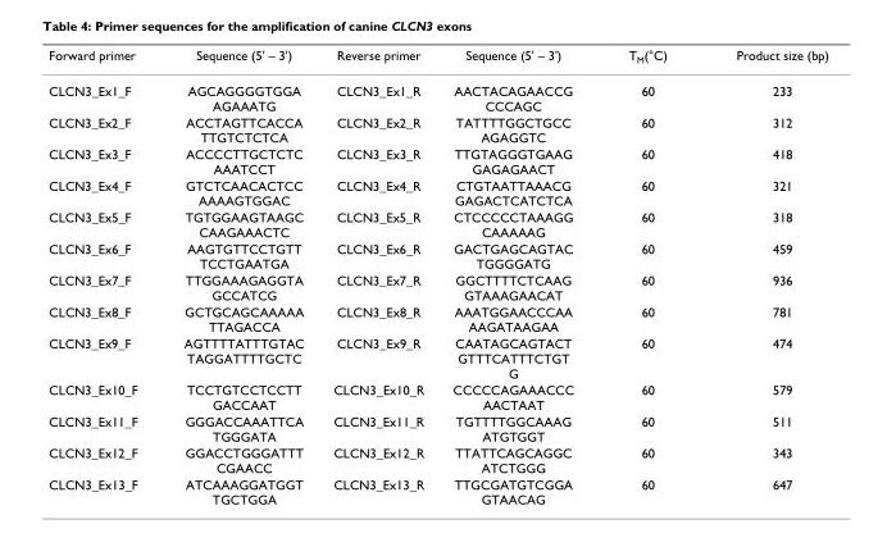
<table><thead><tr><td>Forward primer</td><td>Sequence (5&#x27; – 3&#x27;)</td><td>Reverse primer</td><td>Sequence (5&#x27; – 3&#x27;)</td><td>T<sub>M</sub>(°C)</td><td>Product size (bp)</td></tr></thead><tbody><tr><td>CLCN3_Ex1_F</td><td>AGCAGGGGTGGA AGAAATG</td><td>CLCN3_Ex1_R</td><td>AACTACAGAACCG CCCAGC</td><td>60</td><td>233</td></tr><tr><td>CLCN3_Ex2_F</td><td>ACCTAGTTCACCA TTGTCTCTCA</td><td>CLCN3_Ex2_R</td><td>TATTTTGGCTGCC AGAGGTC</td><td>60</td><td>312</td></tr><tr><td>CLCN3_Ex3_F</td><td>ACCCCTTGCTCTC AAATCCT</td><td>CLCN3_Ex3_R</td><td>TTGTAGGGTGAAG GAGAGAACT</td><td>60</td><td>418</td></tr><tr><td>CLCN3_Ex4_F</td><td>GTCTCAACACTCC AAAAGTGGAC</td><td>CLCN3_Ex4_R</td><td>CTGTAATTAAACG GAGACTCATCTCA</td><td>60</td><td>321</td></tr><tr><td>CLCN3_Ex5_F</td><td>TGTGGAAGTAAGC CAAGAAACTC</td><td>CLCN3_Ex5_R</td><td>CTCCCCCTAAAGG CAAAAAG</td><td>60</td><td>318</td></tr><tr><td>CLCN3_Ex6_F</td><td>AAGTGTTCCTGTT TCCTGAATGA</td><td>CLCN3_Ex6_R</td><td>GACTGAGCAGTAC TGGGGATG</td><td>60</td><td>459</td></tr><tr><td>CLCN3_Ex7_F</td><td>TTGGAAAGAGGTA GCCATCG</td><td>CLCN3_Ex7_R</td><td>GGCTTTTCTCAAG GTAAAGAACAT</td><td>60</td><td>936</td></tr><tr><td>CLCN3_Ex8_F</td><td>GCTGCAGCAAAAA TTAGACCA</td><td>CLCN3_Ex8_R</td><td>AAATGGAACCCAA AAGATAAGAA</td><td>60</td><td>781</td></tr><tr><td>CLCN3_Ex9_F</td><td>AGTTTTATTTGTAC TAGGATTTTGCTC</td><td>CLCN3_Ex9_R</td><td>CAATAGCAGTACT GTTTCATTTCTGT G</td><td>60</td><td>474</td></tr><tr><td>CLCN3_Ex10_F</td><td>TCCTGTCCTCCTT GACCAAT</td><td>CLCN3_Ex10_R</td><td>CCCCCAGAAACCC AACTAAT</td><td>60</td><td>579</td></tr><tr><td>CLCN3_Ex11_F</td><td>GGGACCAAATTCA TGGGATA</td><td>CLCN3_Ex11_R</td><td>TGTTTTGGCAAAG ATGTGGT</td><td>60</td><td>511</td></tr><tr><td>CLCN3_Ex12_F</td><td>GGACCTGGGATTT CGAACC</td><td>CLCN3_Ex12_R</td><td>TTATTCAGCAGGC ATCTGGG</td><td>60</td><td>343</td></tr><tr><td>CLCN3_Ex13_F</td><td>ATCAAAGGATGGT TGCTGGA</td><td>CLCN3_Ex13_R</td><td>TTGCGATGTCGGA GTAACAG</td><td>60</td><td>647</td></tr></tbody></table>